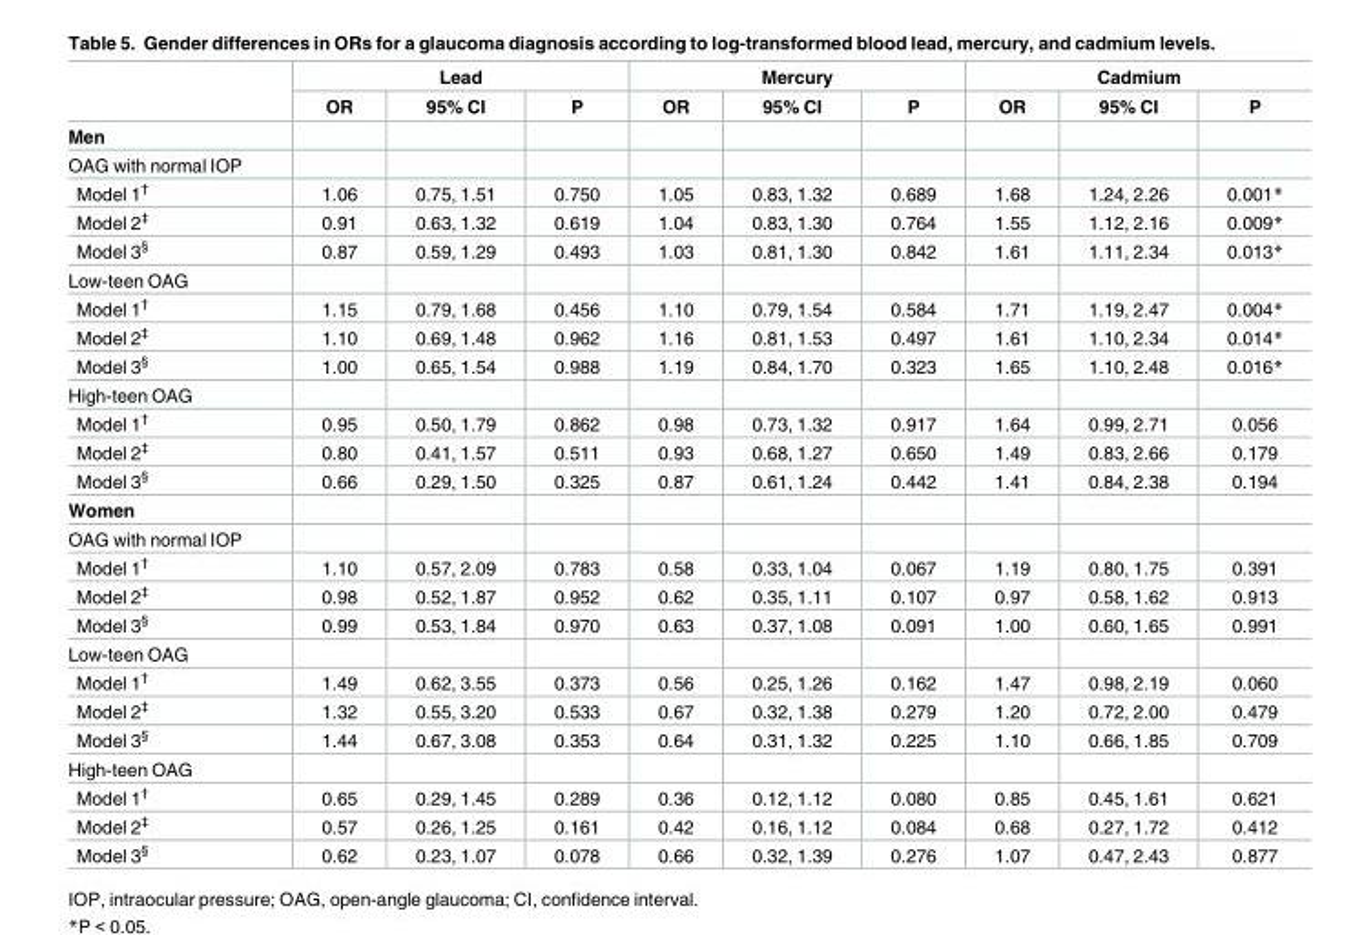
<table><thead><tr><td rowspan="2"></td><td colspan="3">Lead</td><td colspan="3">Mercury</td><td colspan="3">Cadmium</td></tr><tr><td>OR</td><td>95% CI</td><td>P</td><td>OR</td><td>95% CI</td><td>P</td><td>OR</td><td>95% CI</td><td>P</td></tr></thead><tbody><tr><td colspan="10">Men</td></tr><tr><td colspan="10">OAG with normal IOP</td></tr><tr><td>Model 1<sup>†</sup></td><td>1.06</td><td>0.75, 1.51</td><td>0.750</td><td>1.05</td><td>0.83, 1.32</td><td>0.689</td><td>1.68</td><td>1.24, 2.26</td><td>0.001*</td></tr><tr><td>Model 2<sup>‡</sup></td><td>0.91</td><td>0.63, 1.32</td><td>0.619</td><td>1.04</td><td>0.83, 1.30</td><td>0.764</td><td>1.55</td><td>1.12, 2.16</td><td>0.009*</td></tr><tr><td>Model 3<sup>§</sup></td><td>0.87</td><td>0.59, 1.29</td><td>0.493</td><td>1.03</td><td>0.81, 1.30</td><td>0.842</td><td>1.61</td><td>1.11, 2.34</td><td>0.013*</td></tr><tr><td colspan="10">Low-teen OAG</td></tr><tr><td>Model 1<sup>†</sup></td><td>1.15</td><td>0.79, 1.68</td><td>0.456</td><td>1.10</td><td>0.79, 1.54</td><td>0.584</td><td>1.71</td><td>1.19, 2.47</td><td>0.004*</td></tr><tr><td>Model 2<sup>‡</sup></td><td>1.10</td><td>0.69, 1.48</td><td>0.962</td><td>1.16</td><td>0.81, 1.53</td><td>0.497</td><td>1.61</td><td>1.10, 2.34</td><td>0.014*</td></tr><tr><td>Model 3<sup>§</sup></td><td>1.00</td><td>0.65, 1.54</td><td>0.988</td><td>1.19</td><td>0.84, 1.70</td><td>0.323</td><td>1.65</td><td>1.10, 2.48</td><td>0.016*</td></tr><tr><td colspan="10">High-teen OAG</td></tr><tr><td>Model 1<sup>†</sup></td><td>0.95</td><td>0.50, 1.79</td><td>0.862</td><td>0.98</td><td>0.73, 1.32</td><td>0.917</td><td>1.64</td><td>0.99, 2.71</td><td>0.056</td></tr><tr><td>Model 2<sup>‡</sup></td><td>0.80</td><td>0.41, 1.57</td><td>0.511</td><td>0.93</td><td>0.68, 1.27</td><td>0.650</td><td>1.49</td><td>0.83, 2.66</td><td>0.179</td></tr><tr><td>Model 3<sup>§</sup></td><td>0.66</td><td>0.29, 1.50</td><td>0.325</td><td>0.87</td><td>0.61, 1.24</td><td>0.442</td><td>1.41</td><td>0.84, 2.38</td><td>0.194</td></tr><tr><td colspan="10">Women</td></tr><tr><td colspan="10">OAG with normal IOP</td></tr><tr><td>Model 1<sup>†</sup></td><td>1.10</td><td>0.57, 2.09</td><td>0.783</td><td>0.58</td><td>0.33, 1.04</td><td>0.067</td><td>1.19</td><td>0.80, 1.75</td><td>0.391</td></tr><tr><td>Model 2<sup>‡</sup></td><td>0.98</td><td>0.52, 1.87</td><td>0.952</td><td>0.62</td><td>0.35, 1.11</td><td>0.107</td><td>0.97</td><td>0.58, 1.62</td><td>0.913</td></tr><tr><td>Model 3<sup>§</sup></td><td>0.99</td><td>0.53, 1.84</td><td>0.970</td><td>0.63</td><td>0.37, 1.08</td><td>0.091</td><td>1.00</td><td>0.60, 1.65</td><td>0.991</td></tr><tr><td colspan="10">Low-teen OAG</td></tr><tr><td>Model 1<sup>†</sup></td><td>1.49</td><td>0.62, 3.55</td><td>0.373</td><td>0.56</td><td>0.25, 1.26</td><td>0.162</td><td>1.47</td><td>0.98, 2.19</td><td>0.060</td></tr><tr><td>Model 2<sup>‡</sup></td><td>1.32</td><td>0.55, 3.20</td><td>0.533</td><td>0.67</td><td>0.32, 1.38</td><td>0.279</td><td>1.20</td><td>0.72, 2.00</td><td>0.479</td></tr><tr><td>Model 3<sup>§</sup></td><td>1.44</td><td>0.67, 3.08</td><td>0.353</td><td>0.64</td><td>0.31, 1.32</td><td>0.225</td><td>1.10</td><td>0.66, 1.85</td><td>0.709</td></tr><tr><td colspan="10">High-teen OAG</td></tr><tr><td>Model 1<sup>†</sup></td><td>0.65</td><td>0.29, 1.45</td><td>0.289</td><td>0.36</td><td>0.12, 1.12</td><td>0.080</td><td>0.85</td><td>0.45, 1.61</td><td>0.621</td></tr><tr><td>Model 2<sup>‡</sup></td><td>0.57</td><td>0.26, 1.25</td><td>0.161</td><td>0.42</td><td>0.16, 1.12</td><td>0.084</td><td>0.68</td><td>0.27, 1.72</td><td>0.412</td></tr><tr><td>Model 3<sup>§</sup></td><td>0.62</td><td>0.23, 1.07</td><td>0.078</td><td>0.66</td><td>0.32, 1.39</td><td>0.276</td><td>1.07</td><td>0.47, 2.43</td><td>0.877</td></tr></tbody></table>